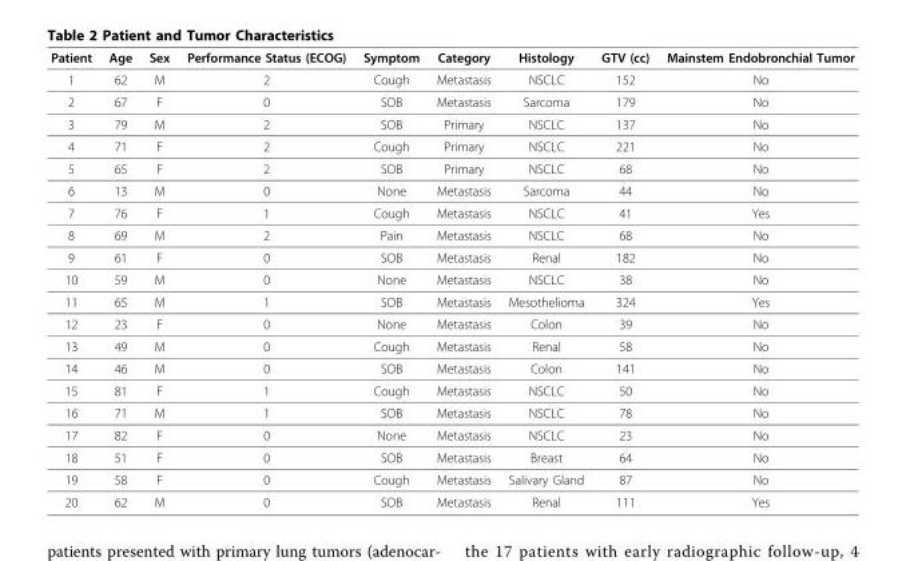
<table><thead><tr><td>Patient</td><td>Age</td><td>Sex</td><td>Performance Status (ECOG)</td><td>Symptom</td><td>Category</td><td>Histology</td><td>GTV (cc)</td><td>Mainstem Endobronchial Tumor</td></tr></thead><tbody><tr><td>1</td><td>62</td><td>M</td><td>2</td><td>Cough</td><td>Metastasis</td><td>NSCLC</td><td>152</td><td>No</td></tr><tr><td>2</td><td>67</td><td>F</td><td>0</td><td>SOB</td><td>Metastasis</td><td>Sarcoma</td><td>179</td><td>No</td></tr><tr><td>3</td><td>79</td><td>M</td><td>2</td><td>SOB</td><td>Primary</td><td>NSCLC</td><td>137</td><td>No</td></tr><tr><td>4</td><td>71</td><td>F</td><td>2</td><td>Cough</td><td>Primary</td><td>NSCLC</td><td>221</td><td>No</td></tr><tr><td>5</td><td>65</td><td>F</td><td>2</td><td>SOB</td><td>Primary</td><td>NSCLC</td><td>68</td><td>No</td></tr><tr><td>6</td><td>13</td><td>M</td><td>0</td><td>None</td><td>Metastasis</td><td>Sarcoma</td><td>44</td><td>No</td></tr><tr><td>7</td><td>76</td><td>F</td><td>1</td><td>Cough</td><td>Metastasis</td><td>NSCLC</td><td>41</td><td>Yes</td></tr><tr><td>8</td><td>69</td><td>M</td><td>2</td><td>Pain</td><td>Metastasis</td><td>NSCLC</td><td>68</td><td>No</td></tr><tr><td>9</td><td>61</td><td>F</td><td>0</td><td>SOB</td><td>Metastasis</td><td>Renal</td><td>182</td><td>No</td></tr><tr><td>10</td><td>59</td><td>M</td><td>0</td><td>None</td><td>Metastasis</td><td>NSCLC</td><td>38</td><td>No</td></tr><tr><td>11</td><td>65</td><td>M</td><td>1</td><td>SOB</td><td>Metastasis</td><td>Mesothelioma</td><td>324</td><td>Yes</td></tr><tr><td>12</td><td>23</td><td>F</td><td>0</td><td>None</td><td>Metastasis</td><td>Colon</td><td>39</td><td>No</td></tr><tr><td>13</td><td>49</td><td>M</td><td>0</td><td>Cough</td><td>Metastasis</td><td>Renal</td><td>58</td><td>No</td></tr><tr><td>14</td><td>46</td><td>M</td><td>0</td><td>SOB</td><td>Metastasis</td><td>Colon</td><td>141</td><td>No</td></tr><tr><td>15</td><td>81</td><td>F</td><td>1</td><td>Cough</td><td>Metastasis</td><td>NSCLC</td><td>50</td><td>No</td></tr><tr><td>16</td><td>71</td><td>M</td><td>1</td><td>SOB</td><td>Metastasis</td><td>NSCLC</td><td>78</td><td>No</td></tr><tr><td>17</td><td>82</td><td>F</td><td>0</td><td>None</td><td>Metastasis</td><td>NSCLC</td><td>23</td><td>No</td></tr><tr><td>18</td><td>51</td><td>F</td><td>0</td><td>SOB</td><td>Metastasis</td><td>Breast</td><td>64</td><td>No</td></tr><tr><td>19</td><td>58</td><td>F</td><td>0</td><td>Cough</td><td>Metastasis</td><td>Salivary Gland</td><td>87</td><td>No</td></tr><tr><td>20</td><td>62</td><td>M</td><td>0</td><td>SOB</td><td>Metastasis</td><td>Renal</td><td>111</td><td>Yes</td></tr></tbody></table>